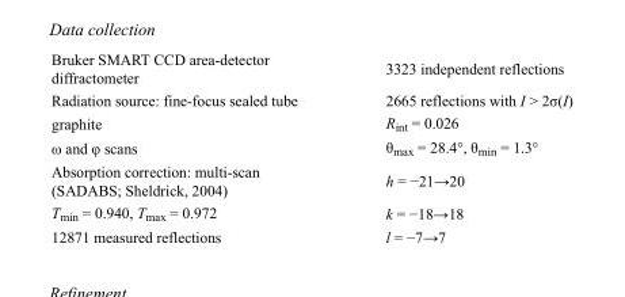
<table><tbody><tr><td>Bruker SMART CCD area-detector diffractometer</td><td>3323 independent reflections</td></tr><tr><td>Radiation source: fine-focus sealed tube</td><td>2665 reflections with I &gt; 2σ(I)</td></tr><tr><td>graphite</td><td>R<sub>int</sub> = 0.026</td></tr><tr><td>ω and φ scans</td><td>θ<sub>max</sub> = 28.4°, θ<sub>min</sub> = 1.3°</td></tr><tr><td>Absorption correction: multi-scan (SADABS; Sheldrick, 2004)</td><td>h = −21→20</td></tr><tr><td>T<sub>min</sub> = 0.940, T<sub>max</sub> = 0.972</td><td>k = −18→18</td></tr><tr><td>12871 measured reflections</td><td>l = −7→7</td></tr></tbody></table>